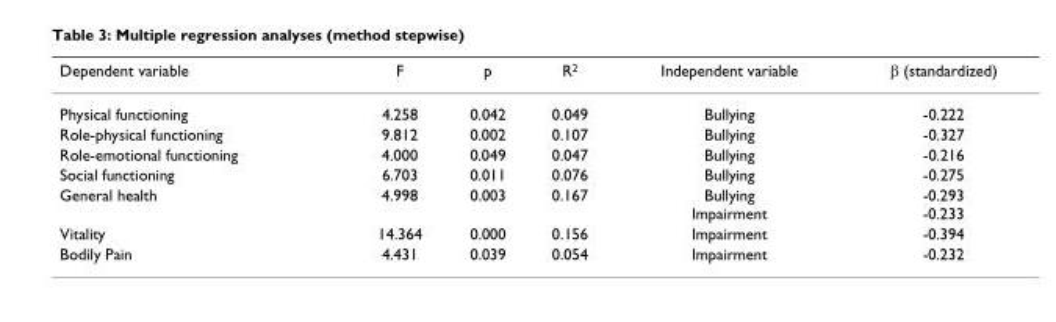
<table><thead><tr><td>Dependent variable</td><td>F</td><td>p</td><td>R<sup>2</sup></td><td>Independent variable</td><td>β (standardized)</td></tr></thead><tbody><tr><td>Physical functioning</td><td>4.258</td><td>0.042</td><td>0.049</td><td>Bullying</td><td>-0.222</td></tr><tr><td>Role-physical functioning</td><td>9.812</td><td>0.002</td><td>0.107</td><td>Bullying</td><td>-0.327</td></tr><tr><td>Role-emotional functioning</td><td>4.000</td><td>0.049</td><td>0.047</td><td>Bullying</td><td>-0.216</td></tr><tr><td>Social functioning</td><td>6.703</td><td>0.011</td><td>0.076</td><td>Bullying</td><td>-0.275</td></tr><tr><td>General health</td><td>4.998</td><td>0.003</td><td>0.167</td><td>Bullying Impairment</td><td>-0.293 -0.233</td></tr><tr><td>Vitality</td><td>14.364</td><td>0.000</td><td>0.156</td><td>Impairment</td><td>-0.394</td></tr><tr><td>Bodily Pain</td><td>4.431</td><td>0.039</td><td>0.054</td><td>Impairment</td><td>-0.232</td></tr></tbody></table>